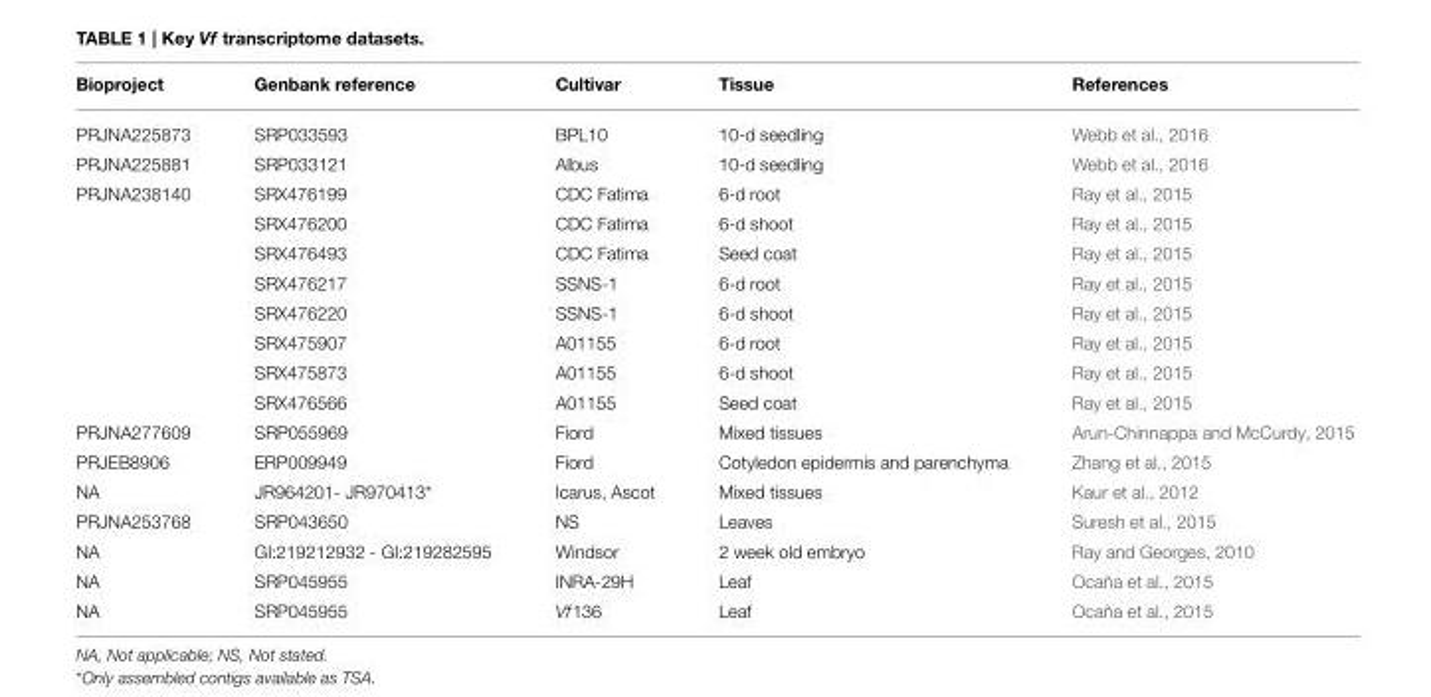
<table><thead><tr><td>Bioproject</td><td>Genbank reference</td><td>Cultivar</td><td>Tissue</td><td>References</td></tr></thead><tbody><tr><td>PRJNA225873</td><td>SRP033593</td><td>BPL10</td><td>10-d seedling</td><td>Webb et al., 2016</td></tr><tr><td>PRJNA225881</td><td>SRP033121</td><td>Albus</td><td>10-d seedling</td><td>Webb et al., 2016</td></tr><tr><td rowspan="8">PRJNA238140</td><td>SRX476199</td><td>CDC Fatima</td><td>6-d root</td><td>Ray et al., 2015</td></tr><tr><td>SRX476200</td><td>CDC Fatima</td><td>6-d shoot</td><td>Ray et al., 2015</td></tr><tr><td>SRX476493</td><td>CDC Fatima</td><td>Seed coat</td><td>Ray et al., 2015</td></tr><tr><td>SRX476217</td><td>SSNS-1</td><td>6-d root</td><td>Ray et al., 2015</td></tr><tr><td>SRX476220</td><td>SSNS-1</td><td>6-d shoot</td><td>Ray et al., 2015</td></tr><tr><td>SRX475907</td><td>A01155</td><td>6-d root</td><td>Ray et al., 2015</td></tr><tr><td>SRX475873</td><td>A01155</td><td>6-d shoot</td><td>Ray et al., 2015</td></tr><tr><td>SRX476566</td><td>A01155</td><td>Seed coat</td><td>Ray et al., 2015</td></tr><tr><td>PRJNA277609</td><td>SRP055969</td><td>Fiord</td><td>Mixed tissues</td><td>Arun-Chinnappa and McCurdy, 2015</td></tr><tr><td>PRJEB8906</td><td>ERP009949</td><td>Fiord</td><td>Cotyledon epidermis and parenchyma</td><td>Zhang et al., 2015</td></tr><tr><td>NA</td><td>JR964201- JR970413*</td><td>Icarus, Ascot</td><td>Mixed tissues</td><td>Kaur et al., 2012</td></tr><tr><td>PRJNA253768</td><td>SRP043650</td><td>NS</td><td>Leaves</td><td>Suresh et al., 2015</td></tr><tr><td>NA</td><td>GI:219212932 - GI:219282595</td><td>Windsor</td><td>2 week old embryo</td><td>Ray and Georges, 2010</td></tr><tr><td>NA</td><td>SRP045955</td><td>INRA-29H</td><td>Leaf</td><td>Ocaña et al., 2015</td></tr><tr><td>NA</td><td>SRP045955</td><td>Vf136</td><td>Leaf</td><td>Ocaña et al., 2015</td></tr></tbody></table>